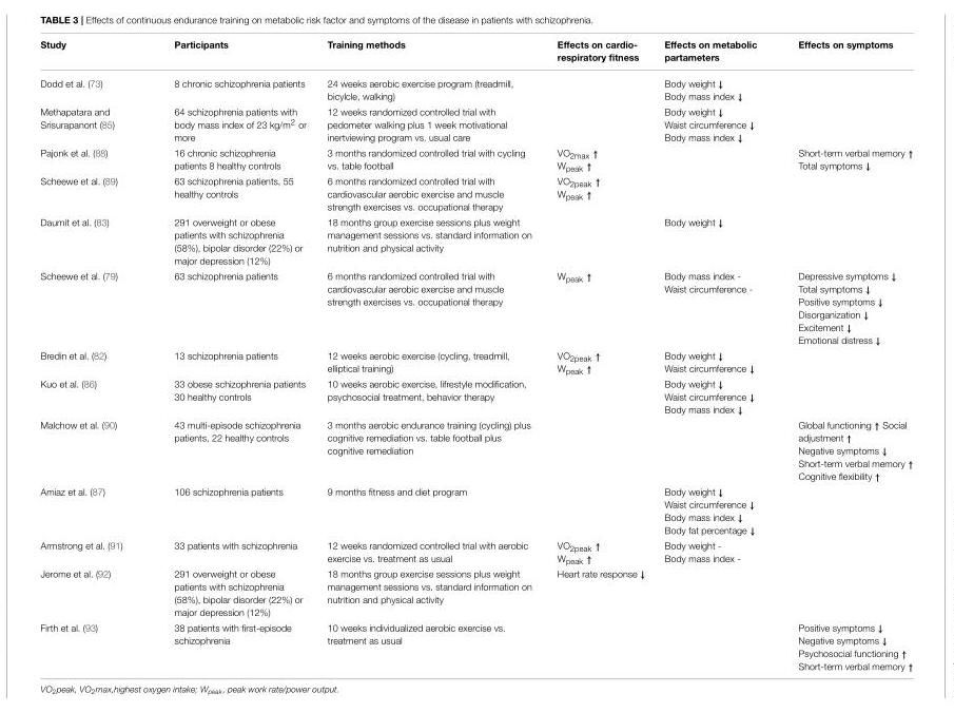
<table><thead><tr><td>Study</td><td>Participants</td><td>Training methods</td><td>Effects on cardio- respiratory fitness</td><td>Effects on metabolic partameters</td><td>Effects on symptoms</td></tr></thead><tbody><tr><td>Dodd et al. (73)</td><td>8 chronic schizophrenia patients</td><td>24 weeks aerobic exercise program (treadmill, bicylcle, walking)</td><td></td><td>Body weight ↓ Body mass index ↓</td><td></td></tr><tr><td>Methapatara and Srisurapanont (85)</td><td>64 schizophrenia patients with body mass index of 23 kg/m<sup>2</sup> or more</td><td>12 weeks randomized controlled trial with pedometer walking plus 1 week motivational inertviewing program vs. usual care</td><td></td><td>Body weight ↓ Waist circumference ↓ Body mass index ↓</td><td></td></tr><tr><td>Pajonk et al. (88)</td><td>16 chronic schizophrenia patients 8 healthy controls</td><td>3 months randomized controlled trial with cycling vs. table football</td><td>VO<sub>2max</sub> ↑ W<sub>peak</sub> ↑</td><td></td><td>Short-term verbal memory ↑ Total symptoms ↓</td></tr><tr><td>Scheewe et al. (89)</td><td>63 schizophrenia patients, 55 healthy controls</td><td>6 months randomized controlled trial with cardiovascular aerobic exercise and muscle strength exercises vs. occupational therapy</td><td>VO<sub>2peak</sub> ↑ W<sub>peak</sub> ↑</td><td></td><td></td></tr><tr><td>Daumit et al. (83)</td><td>291 overweight or obese patients with schizophrenia (58%), bipolar disorder (22%) or major depression (12%)</td><td>18 months group exercise sessions plus weight management sessions vs. standard information on nutrition and physical activity</td><td></td><td>Body weight ↓</td><td></td></tr><tr><td>Scheewe et al. (79)</td><td>63 schizophrenia patients</td><td>6 months randomized controlled trial with cardiovascular aerobic exercise and muscle strength exercises vs. occupational therapy</td><td>W<sub>peak</sub> ↑</td><td>Body mass index - Waist circumference -</td><td>Depressive symptoms ↓ Total symptoms ↓ Positive symptoms ↓ Disorganization ↓ Excitement ↓ Emotional distress ↓</td></tr><tr><td>Bredin et al. (82)</td><td>13 schizophrenia patients</td><td>12 weeks aerobic exercise (cycling, treadmill, elliptical training)</td><td>VO<sub>2peak</sub> ↑ W<sub>peak</sub> ↑</td><td>Body weight ↓ Waist circumference ↓</td><td></td></tr><tr><td>Kuo et al. (86)</td><td>33 obese schizophrenia patients 30 healthy controls</td><td>10 weeks aerobic exercise, lifrestyle modification, psychosocial treatment, behavior therapy</td><td></td><td>Body weight ↓ Waist circumference ↓ Body mass index ↓</td><td></td></tr><tr><td>Malchow et al. (90)</td><td>43 multi-episode schizophrenia patients, 22 healthy controls</td><td>3 months aerobic endurance training (cycling) plus cognitive remediation vs. table football plus cognitive remediation</td><td></td><td></td><td>Global functioning ↑ Social adjustment ↑ Negative symptoms ↓ Short-term verbal memory ↑ Cognitive flexibility ↑</td></tr><tr><td>Amiaz et al. (87)</td><td>106 schizophrenia patients</td><td>9 months fitness and diet program</td><td></td><td>Body weight ↓ Waist circumference ↓ Body mass index ↓ Body fat percentage ↓</td><td></td></tr><tr><td>Armstrong et al. (91)</td><td>33 patients with schizophrenia</td><td>12 weeks randomized controlled trial with aerobic exercise vs. treatment as usual</td><td>VO<sub>2peak</sub> ↑ W<sub>peak</sub> ↑</td><td>Body weight - Body mass index -</td><td></td></tr><tr><td>Jerome et al. (92)</td><td>291 overweight or obese patients with schizophrenia (58%), bipolar disorder (22%) or major depression (12%)</td><td>18 months group exercise sessions plus weight management sessions vs. standard information on nutrition and physical activity</td><td>Heart rate response ↓</td><td></td><td></td></tr><tr><td>Firth et al. (93)</td><td>38 patients with first-episode schizophrenia</td><td>10 weeks individualized aerobic exercise vs. treatment as usual</td><td></td><td></td><td>Positive symptoms ↓ Negative symptoms ↓ Psychosocial functioning ↑ Short-term verbal memory ↑</td></tr></tbody></table>